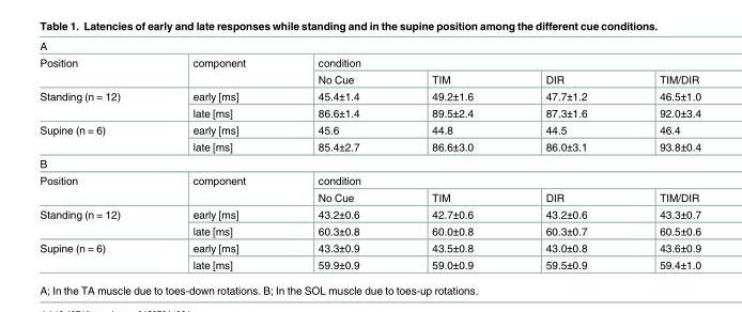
<table><tbody><tr><td colspan="6">A</td></tr><tr><td rowspan="2">Position</td><td rowspan="2">component</td><td colspan="4">condition</td></tr><tr><td>No Cue</td><td>TIM</td><td>DIR</td><td>TIM/DIR</td></tr><tr><td rowspan="2">Standing (n = 12)</td><td>early [ms]</td><td>45.4±1.4</td><td>49.2±1.6</td><td>47.7±1.2</td><td>46.5±1.0</td></tr><tr><td>late [ms]</td><td>86.6±1.4</td><td>89.5±2.4</td><td>87.3±1.6</td><td>92.0±3.4</td></tr><tr><td rowspan="2">Supine (n = 6)</td><td>early [ms]</td><td>45.6</td><td>44.8</td><td>44.5</td><td>46.4</td></tr><tr><td>late [ms]</td><td>85.4±2.7</td><td>86.6±3.0</td><td>86.0±3.1</td><td>93.8±0.4</td></tr><tr><td colspan="6">B</td></tr><tr><td rowspan="2">Position</td><td rowspan="2">component</td><td colspan="4">condition</td></tr><tr><td>No Cue</td><td>TIM</td><td>DIR</td><td>TIM/DIR</td></tr><tr><td rowspan="2">Standing (n = 12)</td><td>early [ms]</td><td>43.2±0.6</td><td>42.7±0.6</td><td>43.2±0.6</td><td>43.3±0.7</td></tr><tr><td>late [ms]</td><td>60.3±0.8</td><td>60.0±0.8</td><td>60.3±0.7</td><td>60.5±0.6</td></tr><tr><td rowspan="2">Supine (n = 6)</td><td>early [ms]</td><td>43.3±0.9</td><td>43.5±0.8</td><td>43.0±0.8</td><td>43.6±0.9</td></tr><tr><td>late [ms]</td><td>59.9±0.9</td><td>59.0±0.9</td><td>59.5±0.9</td><td>59.4±1.0</td></tr></tbody></table>